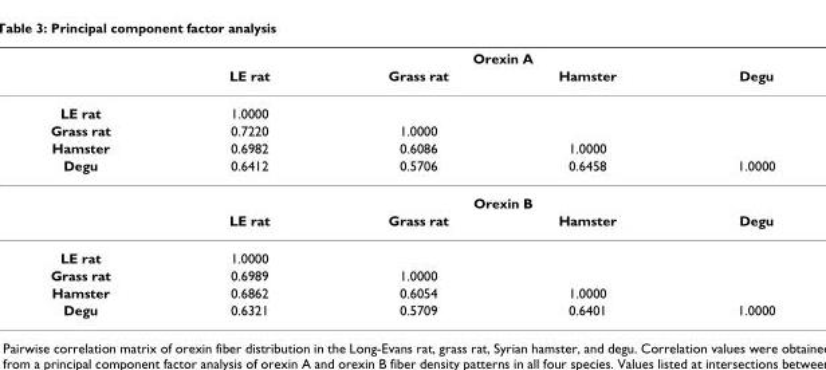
<table><thead><tr><td rowspan="2"></td><td colspan="4">Orexin A</td></tr><tr><td>LE rat</td><td>Grass rat</td><td>Hamster</td><td>Degu</td></tr></thead><tbody><tr><td>LE rat</td><td>1.0000</td><td></td><td></td><td></td></tr><tr><td>Grass rat</td><td>0.7220</td><td>1.0000</td><td></td><td></td></tr><tr><td>Hamster</td><td>0.6982</td><td>0.6086</td><td>1.0000</td><td></td></tr><tr><td rowspan="3">Degu</td><td>0.6412</td><td>0.5706</td><td>0.6458</td><td>1.0000</td></tr><tr><td colspan="4">Orexin B</td></tr><tr><td>LE rat</td><td>Grass rat</td><td>Hamster</td><td>Degu</td></tr><tr><td>LE rat</td><td>1.0000</td><td></td><td></td><td></td></tr><tr><td>Grass rat</td><td>0.6989</td><td>1.0000</td><td></td><td></td></tr><tr><td>Hamster</td><td>0.6862</td><td>0.6054</td><td>1.0000</td><td></td></tr><tr><td>Degu</td><td>0.6321</td><td>0.5709</td><td>0.6401</td><td>1.0000</td></tr></tbody></table>